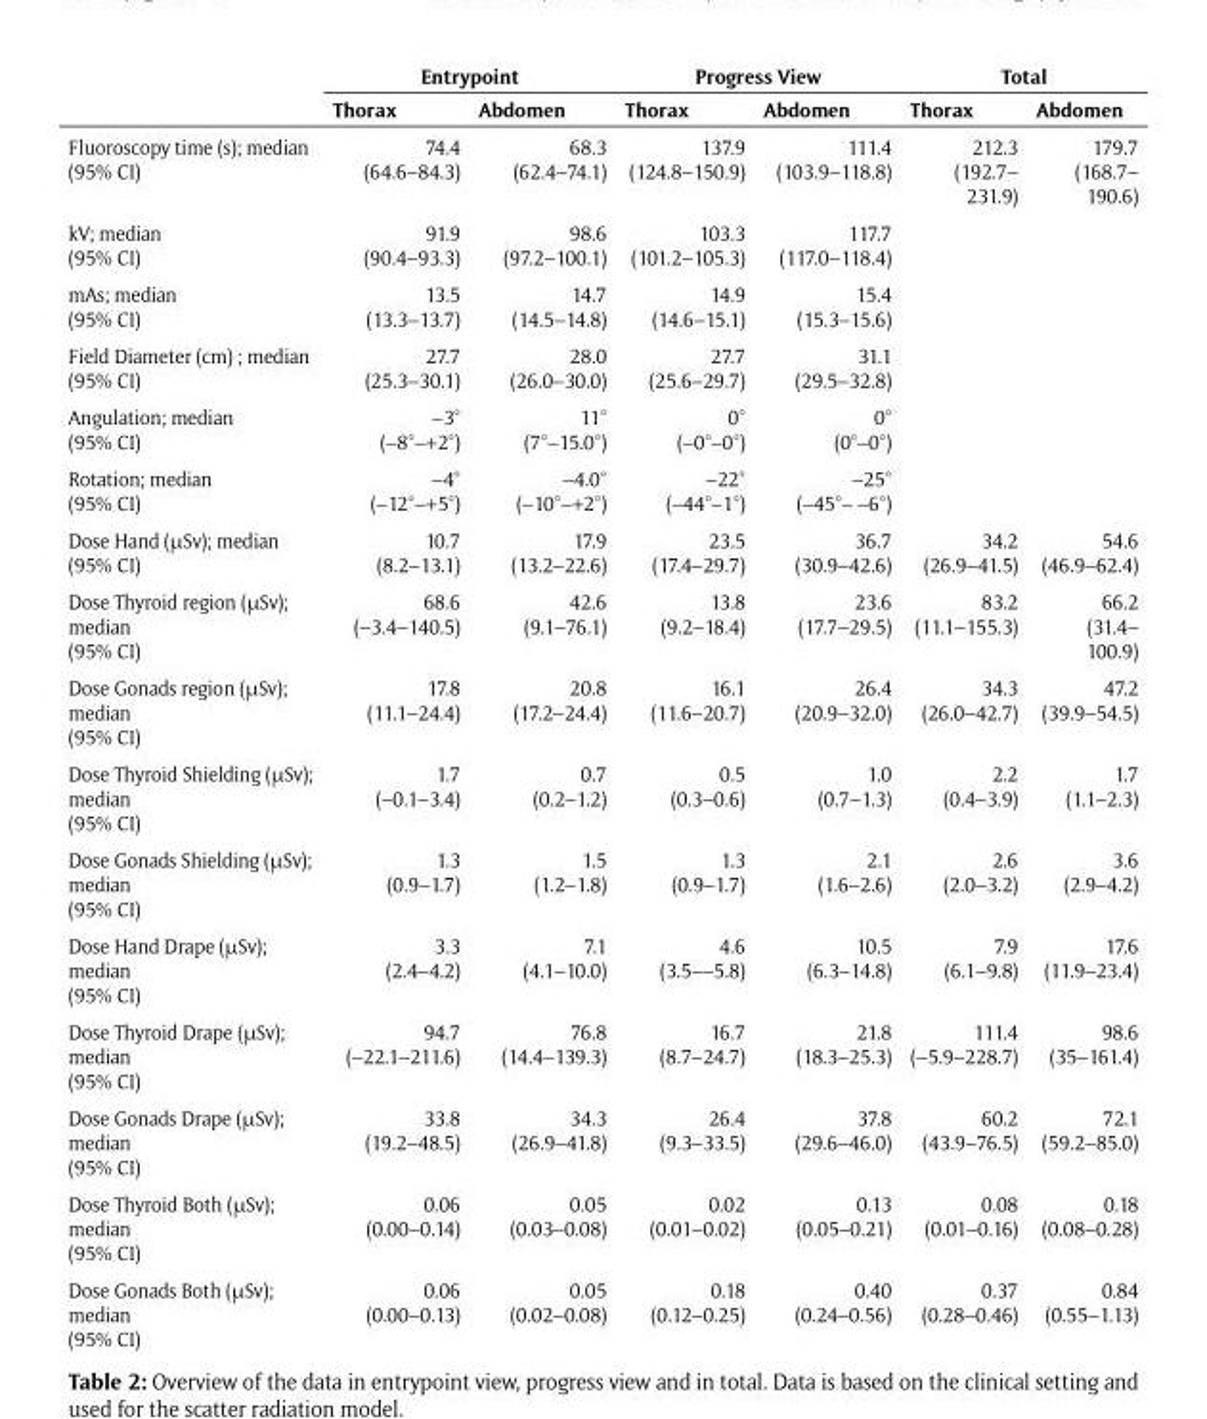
<table><thead><tr><td rowspan="2"></td><td colspan="2">Entrypoint</td><td colspan="2">Progress View</td><td colspan="2">Total</td></tr><tr><td>Thorax</td><td>Abdomen</td><td>Thorax</td><td>Abdomen</td><td>Thorax</td><td>Abdomen</td></tr></thead><tbody><tr><td>Fluoroscopy time (s); median (95% CI)</td><td>74.4 (64.6–84.3)</td><td>68.3 (62.4–74.1)</td><td>137.9 (124.8–150.9)</td><td>111.4 (103.9–118.8)</td><td>212.3 (192.7– 231.9)</td><td>179.7 (168.7– 190.6)</td></tr><tr><td>kV; median (95% CI)</td><td>91.9 (90.4–93.3)</td><td>98.6 (97.2–100.1)</td><td>103.3 (101.2–105.3)</td><td>117.7 (117.0–118.4)</td><td></td><td></td></tr><tr><td>mAs; median (95% CI)</td><td>13.5 (13.3–13.7)</td><td>14.7 (14.5–14.8)</td><td>14.9 (14.6–15.1)</td><td>15.4 (15.3–15.6)</td><td></td><td></td></tr><tr><td>Field Diameter (cm) ; median (95% CI)</td><td>27.7 (25.3–30.1)</td><td>28.0 (26.0–30.0)</td><td>27.7 (25.6–29.7)</td><td>31.1 (29.5–32.8)</td><td></td><td></td></tr><tr><td>Angulation; median (95% CI)</td><td>–3° (–8°–+2°)</td><td>11° (7°–15.0°)</td><td>0° (–0°–0°)</td><td>0° (0°–0°)</td><td></td><td></td></tr><tr><td>Rotation; median (95% CI)</td><td>–4° (–12°–+5°)</td><td>–4.0° (–10°–+2°)</td><td>–22° (–44°–1°)</td><td>–25° (–45°– –6°)</td><td></td><td></td></tr><tr><td>Dose Hand (µSv); median (95% CI)</td><td>10.7 (8.2–13.1)</td><td>17.9 (13.2–22.6)</td><td>23.5 (17.4–29.7)</td><td>36.7 (30.9–42.6)</td><td>34.2 (26.9–41.5)</td><td>54.6 (46.9–62.4)</td></tr><tr><td>Dose Thyroid region (µSv); median (95% CI)</td><td>68.6 (–3.4–140.5)</td><td>42.6 (9.1–76.1)</td><td>13.8 (9.2–18.4)</td><td>23.6 (17.7–29.5)</td><td>83.2 (11.1–155.3)</td><td>66.2 (31.4– 100.9)</td></tr><tr><td>Dose Gonads region (µSv); median (95% CI)</td><td>17.8 (11.1–24.4)</td><td>20.8 (17.2–24.4)</td><td>16.1 (11.6–20.7)</td><td>26.4 (20.9–32.0)</td><td>34.3 (26.0–42.7)</td><td>47.2 (39.9–54.5)</td></tr><tr><td>Dose Thyroid Shielding (µSv); median (95% CI)</td><td>1.7 (–0.1–3.4)</td><td>0.7 (0.2–1.2)</td><td>0.5 (0.3–0.6)</td><td>1.0 (0.7–1.3)</td><td>2.2 (0.4–3.9)</td><td>1.7 (1.1–2.3)</td></tr><tr><td>Dose Gonads Shielding (µSv); median (95% CI)</td><td>1.3 (0.9–1.7)</td><td>1.5 (1.2–1.8)</td><td>1.3 (0.9–1.7)</td><td>2.1 (1.6–2.6)</td><td>2.6 (2.0–3.2)</td><td>3.6 (2.9–4.2)</td></tr><tr><td>Dose Hand Drape (µSv); median (95% CI)</td><td>3.3 (2.4–4.2)</td><td>7.1 (4.1–10.0)</td><td>4.6 (3.5––5.8)</td><td>10.5 (6.3–14.8)</td><td>7.9 (6.1–9.8)</td><td>17.6 (11.9–23.4)</td></tr><tr><td>Dose Thyroid Drape (µSv); median (95% CI)</td><td>94.7 (–22.1–211.6)</td><td>76.8 (14.4–139.3)</td><td>16.7 (8.7–24.7)</td><td>21.8 (18.3–25.3)</td><td>111.4 (–5.9–228.7)</td><td>98.6 (35–161.4)</td></tr><tr><td>Dose Gonads Drape (µSv); median (95% CI)</td><td>33.8 (19.2–48.5)</td><td>34.3 (26.9–41.8)</td><td>26.4 (9.3–33.5)</td><td>37.8 (29.6–46.0)</td><td>60.2 (43.9–76.5)</td><td>72.1 (59.2–85.0)</td></tr><tr><td>Dose Thyroid Both (µSv); median (95% CI)</td><td>0.06 (0.00–0.14)</td><td>0.05 (0.03–0.08)</td><td>0.02 (0.01–0.02)</td><td>0.13 (0.05–0.21)</td><td>0.08 (0.01–0.16)</td><td>0.18 (0.08–0.28)</td></tr><tr><td>Dose Gonads Both (µSv); median (95% CI)</td><td>0.06 (0.00–0.13)</td><td>0.05 (0.02–0.08)</td><td>0.18 (0.12–0.25)</td><td>0.40 (0.24–0.56)</td><td>0.37 (0.28–0.46)</td><td>0.84 (0.55–1.13)</td></tr></tbody></table>